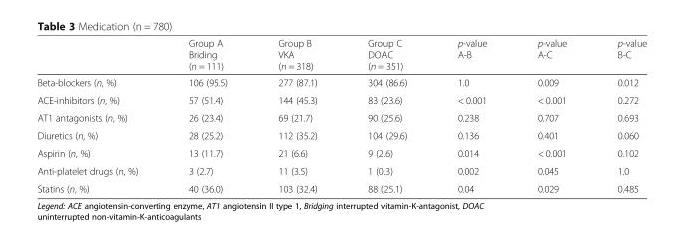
<table><thead><tr><td></td><td>Group A Briding (n = 111)</td><td>Group B VKA (n = 318)</td><td>Group C DOAC (n = 351)</td><td>p-value A-B</td><td>p-value A-C</td><td>p-value B-C</td></tr></thead><tbody><tr><td>Beta-blockers (n, %)</td><td>106 (95.5)</td><td>277 (87.1)</td><td>304 (86.6)</td><td>1.0</td><td>0.009</td><td>0.012</td></tr><tr><td>ACE-inhibitors (n, %)</td><td>57 (51.4)</td><td>144 (45.3)</td><td>83 (23.6)</td><td>&lt; 0.001</td><td>&lt; 0.001</td><td>0.272</td></tr><tr><td>AT1 antagonists (n, %)</td><td>26 (23.4)</td><td>69 (21.7)</td><td>90 (25.6)</td><td>0.238</td><td>0.707</td><td>0.693</td></tr><tr><td>Diuretics (n, %)</td><td>28 (25.2)</td><td>112 (35.2)</td><td>104 (29.6)</td><td>0.136</td><td>0.401</td><td>0.060</td></tr><tr><td>Aspirin (n, %)</td><td>13 (11.7)</td><td>21 (6.6)</td><td>9 (2.6)</td><td>0.014</td><td>&lt; 0.001</td><td>0.102</td></tr><tr><td>Anti-platelet drugs (n, %)</td><td>3 (2.7)</td><td>11 (3.5)</td><td>1 (0.3)</td><td>0.002</td><td>0.045</td><td>1.0</td></tr><tr><td>Statins (n, %)</td><td>40 (36.0)</td><td>103 (32.4)</td><td>88 (25.1)</td><td>0.04</td><td>0.029</td><td>0.485</td></tr></tbody></table>